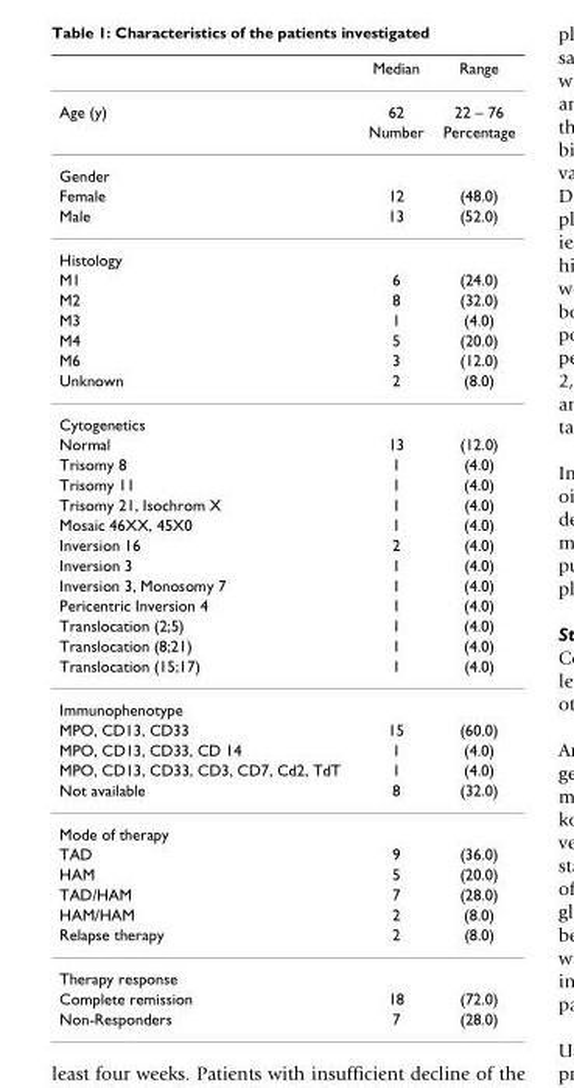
<table><thead><tr><td></td><td>Median</td><td>Range</td></tr></thead><tbody><tr><td rowspan="2">Age (y)</td><td>62</td><td>22 – 76</td></tr><tr><td>Number</td><td>Percentage</td></tr><tr><td colspan="3">Gender</td></tr><tr><td>Female</td><td>12</td><td>(48.0)</td></tr><tr><td>Male</td><td>13</td><td>(52.0)</td></tr><tr><td colspan="3">Histology</td></tr><tr><td>M1</td><td>6</td><td>(24.0)</td></tr><tr><td>M2</td><td>8</td><td>(32.0)</td></tr><tr><td>M3</td><td>1</td><td>(4.0)</td></tr><tr><td>M4</td><td>5</td><td>(20.0)</td></tr><tr><td>M6</td><td>3</td><td>(12.0)</td></tr><tr><td>Unknown</td><td>2</td><td>(8.0)</td></tr><tr><td colspan="3">Cytogenetics</td></tr><tr><td>Normal</td><td>13</td><td>(12.0)</td></tr><tr><td>Trisomy 8</td><td>1</td><td>(4.0)</td></tr><tr><td>Trisomy 11</td><td>1</td><td>(4.0)</td></tr><tr><td>Trisomy 21, Isochrom X</td><td>1</td><td>(4.0)</td></tr><tr><td>Mosaic 46XX, 45X0</td><td>1</td><td>(4.0)</td></tr><tr><td>Inversion 16</td><td>2</td><td>(4.0)</td></tr><tr><td>Inversion 3</td><td>1</td><td>(4.0)</td></tr><tr><td>Inversion 3, Monosomy 7</td><td>1</td><td>(4.0)</td></tr><tr><td>Pericentric Inversion 4</td><td>1</td><td>(4.0)</td></tr><tr><td>Translocation (2;5)</td><td>1</td><td>(4.0)</td></tr><tr><td>Translocation (8;21)</td><td>1</td><td>(4.0)</td></tr><tr><td>Translocation (15;17)</td><td>1</td><td>(4.0)</td></tr><tr><td colspan="3">Immunophenotype</td></tr><tr><td>MPO, CD13, CD33</td><td>15</td><td>(60.0)</td></tr><tr><td>MPO, CD13, CD33, CD 14</td><td>1</td><td>(4.0)</td></tr><tr><td>MPO, CD13, CD33, CD3, CD7, Cd2, TdT</td><td>1</td><td>(4.0)</td></tr><tr><td>Not available</td><td>8</td><td>(32.0)</td></tr><tr><td colspan="3">Mode of therapy</td></tr><tr><td>TAD</td><td>9</td><td>(36.0)</td></tr><tr><td>HAM</td><td>5</td><td>(20.0)</td></tr><tr><td>TAD/HAM</td><td>7</td><td>(28.0)</td></tr><tr><td>HAM/HAM</td><td>2</td><td>(8.0)</td></tr><tr><td>Relapse therapy</td><td>2</td><td>(8.0)</td></tr><tr><td colspan="3">Therapy response</td></tr><tr><td>Complete remission</td><td>18</td><td>(72.0)</td></tr><tr><td>Non-Responders</td><td>7</td><td>(28.0)</td></tr></tbody></table>